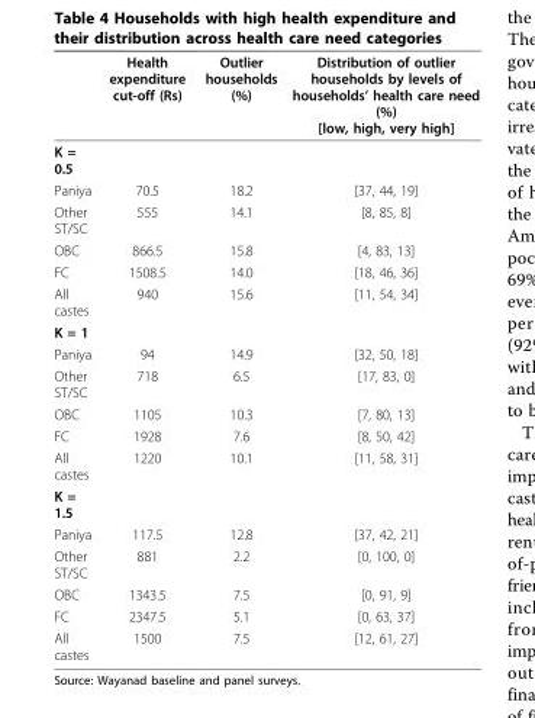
<table><thead><tr><td></td><td>Health expenditure cut-off (Rs)</td><td>Outlier households (%)</td><td>Distribution of outlier households by levels of households’ health care need (%) [low, high, very high]</td></tr></thead><tbody><tr><td colspan="4">K = 0.5</td></tr><tr><td>Paniya</td><td>70.5</td><td>18.2</td><td>[37, 44, 19]</td></tr><tr><td>Other ST/SC</td><td>555</td><td>14.1</td><td>[8, 85, 8]</td></tr><tr><td>OBC</td><td>866.5</td><td>15.8</td><td>[4, 83, 13]</td></tr><tr><td>FC</td><td>1508.5</td><td>14.0</td><td>[18, 46, 36]</td></tr><tr><td>All castes</td><td>940</td><td>15.6</td><td>[11, 54, 34]</td></tr><tr><td colspan="4">K = 1</td></tr><tr><td>Paniya</td><td>94</td><td>14.9</td><td>[32, 50, 18]</td></tr><tr><td>Other ST/SC</td><td>718</td><td>6.5</td><td>[17, 83, 0]</td></tr><tr><td>OBC</td><td>1105</td><td>10.3</td><td>[7, 80, 13]</td></tr><tr><td>FC</td><td>1928</td><td>7.6</td><td>[8, 50, 42]</td></tr><tr><td>All castes</td><td>1220</td><td>10.1</td><td>[11, 58, 31]</td></tr><tr><td colspan="4">K = 1.5</td></tr><tr><td>Paniya</td><td>117.5</td><td>12.8</td><td>[37, 42, 21]</td></tr><tr><td>Other ST/SC</td><td>881</td><td>2.2</td><td>[0, 100, 0]</td></tr><tr><td>OBC</td><td>1343.5</td><td>7.5</td><td>[0, 91, 9]</td></tr><tr><td>FC</td><td>2347.5</td><td>5.1</td><td>[0, 63, 37]</td></tr><tr><td>All castes</td><td>1500</td><td>7.5</td><td>[12, 61, 27]</td></tr></tbody></table>